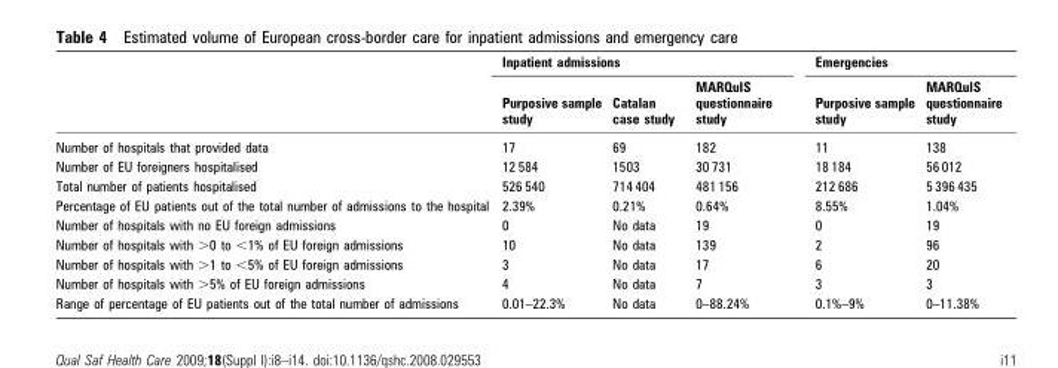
<table><thead><tr><td rowspan="2"></td><td colspan="3">Inpatient admissions</td><td colspan="2">Emergencies</td></tr><tr><td>Purposive sample study</td><td>Catalan case study</td><td>MARQuIS questionnaire study</td><td>Purposive sample study</td><td>MARQuIS questionnaire study</td></tr></thead><tbody><tr><td>Number of hospitals that provided data</td><td>17</td><td>69</td><td>182</td><td>11</td><td>138</td></tr><tr><td>Number of EU foreigners hospitalised</td><td>12 584</td><td>1503</td><td>30 731</td><td>18 184</td><td>56 012</td></tr><tr><td>Total number of patients hospitalised</td><td>526 540</td><td>714 404</td><td>481 156</td><td>212 686</td><td>5 396 435</td></tr><tr><td>Percentage of EU patients out of the total number of admissions to the hospital</td><td>2.39%</td><td>0.21%</td><td>0.64%</td><td>8.55%</td><td>1.04%</td></tr><tr><td>Number of hospitals with no EU foreign admissions</td><td>0</td><td>No data</td><td>19</td><td>0</td><td>19</td></tr><tr><td>Number of hospitals with &gt;0 to &lt;1% of EU foreign admissions</td><td>10</td><td>No data</td><td>139</td><td>2</td><td>96</td></tr><tr><td>Number of hospitals with &gt;1 to &lt;5% of EU foreign admissions</td><td>3</td><td>No data</td><td>17</td><td>6</td><td>20</td></tr><tr><td>Number of hospitals with &gt;5% of EU foreign admissions</td><td>4</td><td>No data</td><td>7</td><td>3</td><td>3</td></tr><tr><td>Range of percentage of EU patients out of the total number of admissions</td><td>0.01–22.3%</td><td>No data</td><td>0–88.24%</td><td>0.1%–9%</td><td>0–11.38%</td></tr></tbody></table>